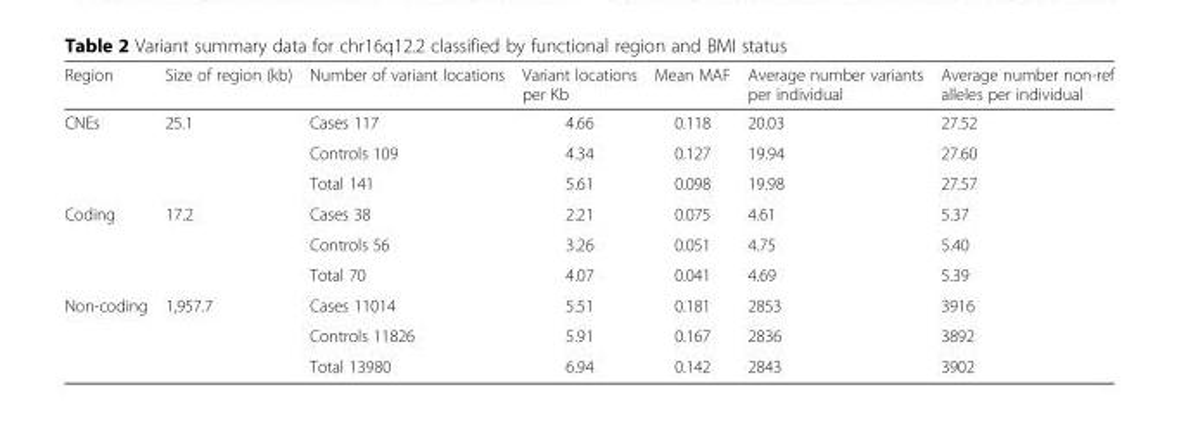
<table><thead><tr><td>Region</td><td>Size of region (kb)</td><td>Number of variant locations</td><td>Variant locations per Kb</td><td>Mean MAF</td><td>Average number variants per individual</td><td>Average number non-ref alleles per individual</td></tr></thead><tbody><tr><td rowspan="3">CNEs</td><td rowspan="3">25.1</td><td>Cases 117</td><td>4.66</td><td>0.118</td><td>20.03</td><td>27.52</td></tr><tr><td>Controls 109</td><td>4.34</td><td>0.127</td><td>19.94</td><td>27.60</td></tr><tr><td>Total 141</td><td>5.61</td><td>0.098</td><td>19.98</td><td>27.57</td></tr><tr><td rowspan="3">Coding</td><td rowspan="3">17.2</td><td>Cases 38</td><td>2.21</td><td>0.075</td><td>4.61</td><td>5.37</td></tr><tr><td>Controls 56</td><td>3.26</td><td>0.051</td><td>4.75</td><td>5.40</td></tr><tr><td>Total 70</td><td>4.07</td><td>0.041</td><td>4.69</td><td>5.39</td></tr><tr><td rowspan="3">Non-coding</td><td rowspan="3">1,957.7</td><td>Cases 11014</td><td>5.51</td><td>0.181</td><td>2853</td><td>3916</td></tr><tr><td>Controls 11826</td><td>5.91</td><td>0.167</td><td>2836</td><td>3892</td></tr><tr><td>Total 13980</td><td>6.94</td><td>0.142</td><td>2843</td><td>3902</td></tr></tbody></table>